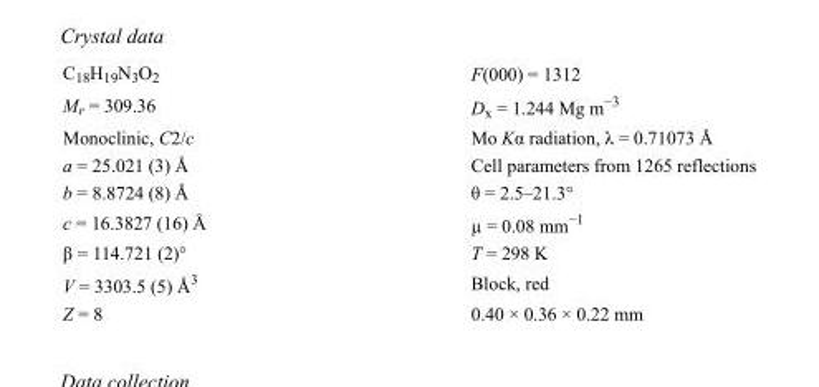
<table><tbody><tr><td>C<sub>18</sub>H<sub>19</sub>N<sub>3</sub>O<sub>2</sub></td><td>F(000) = 1312</td></tr><tr><td>M<sub>r</sub> = 309.36</td><td>D<sub>x</sub> = 1.244 Mg m<sup>−3</sup></td></tr><tr><td>Monoclinic, C2/c</td><td>Mo Kα radiation, λ = 0.71073 Å</td></tr><tr><td>a = 25.021 (3) Å</td><td>Cell parameters from 1265 reflections</td></tr><tr><td>b = 8.8724 (8) Å</td><td>θ = 2.5–21.3°</td></tr><tr><td>c = 16.3827 (16) Å</td><td>µ = 0.08 mm<sup>−1</sup></td></tr><tr><td>β = 114.721 (2)°</td><td>T = 298 K</td></tr><tr><td>V = 3303.5 (5) Å<sup>3</sup></td><td>Block, red</td></tr><tr><td>Z = 8</td><td>0.40 × 0.36 × 0.22 mm</td></tr></tbody></table>